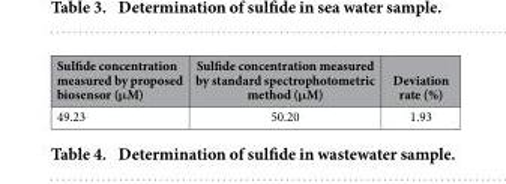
<table><thead><tr><td>Sulfide concentration measured by proposed biosensor (μ M)</td><td>Sulfide concentration measured by standard spectrophotometric method (μ M)</td><td>Deviation rate (%)</td></tr></thead><tbody><tr><td>49.23</td><td>50.20</td><td>1.93</td></tr></tbody></table>